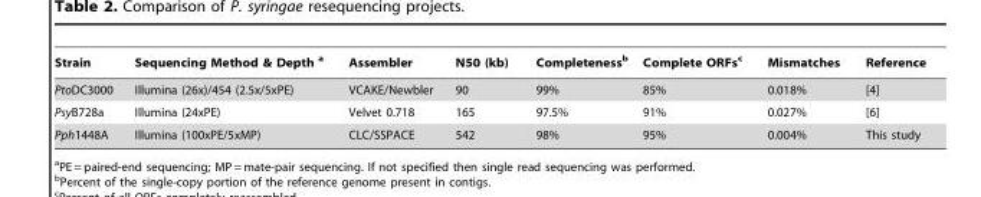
<table><thead><tr><td>Strain</td><td>Sequencing Method &amp; Depth a</td><td>Assembler</td><td>N50 (kb)</td><td>Completeness<sup>b</sup></td><td>Complete ORFs<sup>c</sup></td><td>Mismatches</td><td>Reference</td></tr></thead><tbody><tr><td>PtoDC3000</td><td>Illumina (26x)/454 (2.5x/5xPE)</td><td>VCAKE/Newbler</td><td>90</td><td>99%</td><td>85%</td><td>0.018%</td><td>[4]</td></tr><tr><td>PsyB728a</td><td>Illumina (24xPE)</td><td>Velvet 0.718</td><td>165</td><td>97.5%</td><td>91%</td><td>0.027%</td><td>[6]</td></tr><tr><td>Pph1448A</td><td>Illumina (100xPE/5xMP)</td><td>CLC/SSPACE</td><td>542</td><td>98%</td><td>95%</td><td>0.004%</td><td>This study</td></tr></tbody></table>